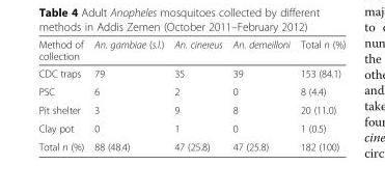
<table><thead><tr><td>Method of collection</td><td>An. gambiae (s.l.)</td><td>An. cinereus</td><td>An. demeilloni</td><td>Total n (%)</td></tr></thead><tbody><tr><td>CDC traps</td><td>79</td><td>35</td><td>39</td><td>153 (84.1)</td></tr><tr><td>PSC</td><td>6</td><td>2</td><td>0</td><td>8 (4.4)</td></tr><tr><td>Pit shelter</td><td>3</td><td>9</td><td>8</td><td>20 (11.0)</td></tr><tr><td>Clay pot</td><td>0</td><td>1</td><td>0</td><td>1 (0.5)</td></tr><tr><td>Total n (%)</td><td>88 (48.4)</td><td>47 (25.8)</td><td>47 (25.8)</td><td>182 (100)</td></tr></tbody></table>